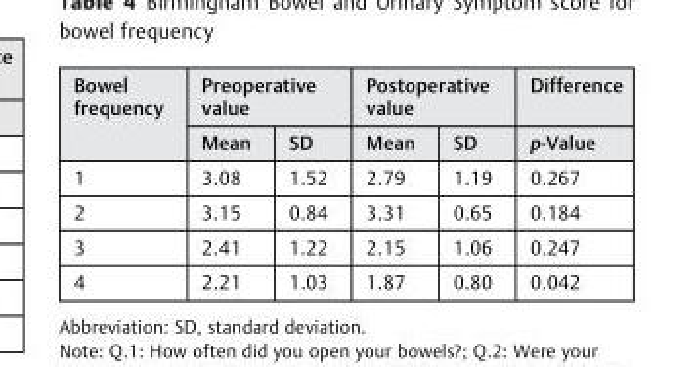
<table><thead><tr><td rowspan="2">Bowel frequency</td><td colspan="2">Preoperative value</td><td colspan="2">Postoperative value</td><td rowspan="2">Difference p-Value</td></tr><tr><td>Mean</td><td>SD</td><td>Mean</td><td>SD</td></tr></thead><tbody><tr><td>1</td><td>3.08</td><td>1.52</td><td>2.79</td><td>1.19</td><td>0.267</td></tr><tr><td>2</td><td>3.15</td><td>0.84</td><td>3.31</td><td>0.65</td><td>0.184</td></tr><tr><td>3</td><td>2.41</td><td>1.22</td><td>2.15</td><td>1.06</td><td>0.247</td></tr><tr><td>4</td><td>2.21</td><td>1.03</td><td>1.87</td><td>0.80</td><td>0.042</td></tr></tbody></table>